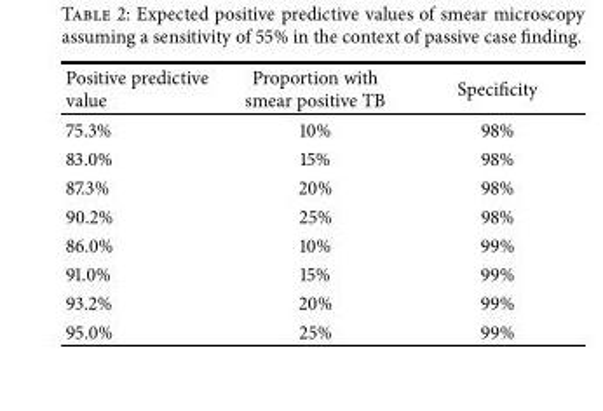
<table><thead><tr><td>Positive predictive value</td><td>Proportion with smear positive TB</td><td>Specificity</td></tr></thead><tbody><tr><td>75.3%</td><td>10%</td><td>98%</td></tr><tr><td>83.0%</td><td>15%</td><td>98%</td></tr><tr><td>87.3%</td><td>20%</td><td>98%</td></tr><tr><td>90.2%</td><td>25%</td><td>98%</td></tr><tr><td>86.0%</td><td>10%</td><td>99%</td></tr><tr><td>91.0%</td><td>15%</td><td>99%</td></tr><tr><td>93.2%</td><td>20%</td><td>99%</td></tr><tr><td>95.0%</td><td>25%</td><td>99%</td></tr></tbody></table>